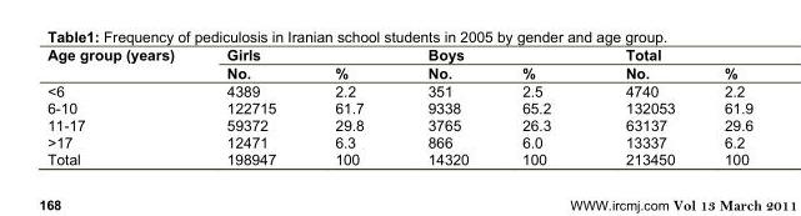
<table><thead><tr><td rowspan="2">Age group (years)</td><td colspan="2">Girls</td><td colspan="2">Boys</td><td colspan="2">Total</td></tr><tr><td>No.</td><td>%</td><td>No.</td><td>%</td><td>No.</td><td>%</td></tr></thead><tbody><tr><td>&lt;6</td><td>4389</td><td>2.2</td><td>351</td><td>2.5</td><td>4740</td><td>2.2</td></tr><tr><td>6-10</td><td>122715</td><td>61.7</td><td>9338</td><td>65.2</td><td>132053</td><td>61.9</td></tr><tr><td>11-17</td><td>59372</td><td>29.8</td><td>3765</td><td>26.3</td><td>63137</td><td>29.6</td></tr><tr><td>&gt;17</td><td>12471</td><td>6.3</td><td>866</td><td>6.0</td><td>13337</td><td>6.2</td></tr><tr><td>Total</td><td>198947</td><td>100</td><td>14320</td><td>100</td><td>213450</td><td>100</td></tr></tbody></table>